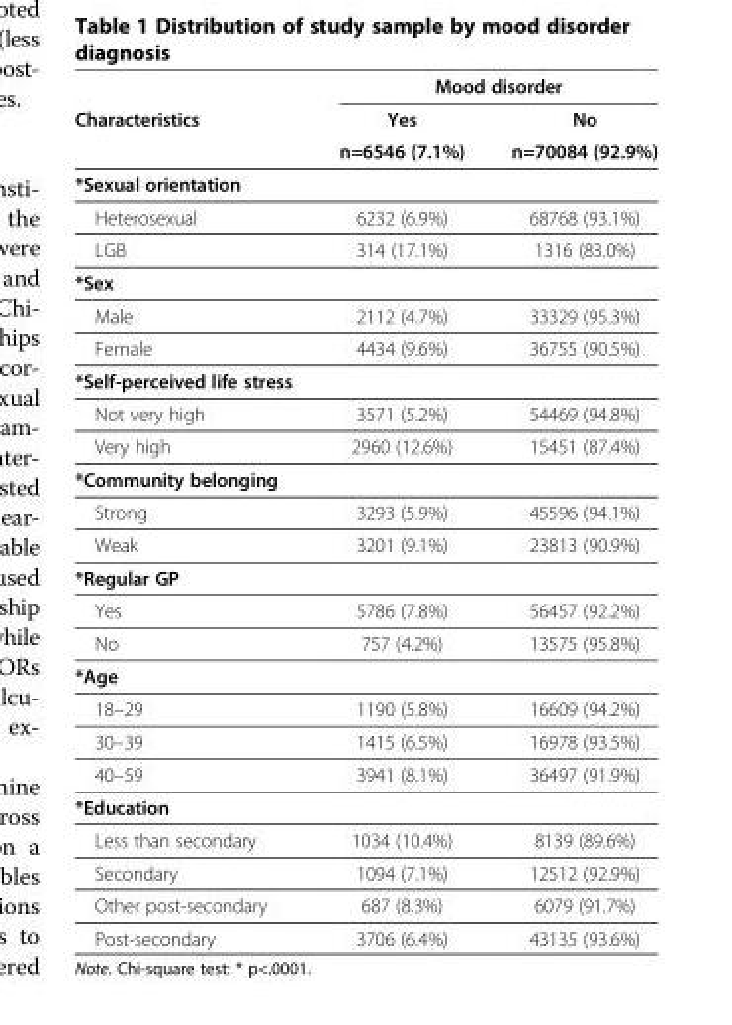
<table><thead><tr><td rowspan="3">Characteristics</td><td colspan="2">Mood disorder</td></tr><tr><td rowspan="2">Yes n=6546 (7.1%)</td><td rowspan="2">No n=70084 (92.9%)</td></tr><tr></tr></thead><tbody><tr><td colspan="3">*Sexual orientation</td></tr><tr><td>Heterosexual</td><td>6232 (6.9%)</td><td>68768 (93.1%)</td></tr><tr><td>LGB</td><td>314 (17.1%)</td><td>1316 (83.0%)</td></tr><tr><td colspan="3">*Sex</td></tr><tr><td>Male</td><td>2112 (4.7%)</td><td>33329 (95.3%)</td></tr><tr><td>Female</td><td>4434 (9.6%)</td><td>36755 (90.5%)</td></tr><tr><td colspan="3">*Self-perceived life stress</td></tr><tr><td>Not very high</td><td>3571 (5.2%)</td><td>54469 (94.8%)</td></tr><tr><td>Very high</td><td>2960 (12.6%)</td><td>15451 (87.4%)</td></tr><tr><td colspan="3">*Community belonging</td></tr><tr><td>Strong</td><td>3293 (5.9%)</td><td>45596 (94.1%)</td></tr><tr><td>Weak</td><td>3201 (9.1%)</td><td>23813 (90.9%)</td></tr><tr><td colspan="3">*Regular GP</td></tr><tr><td>Yes</td><td>5786 (7.8%)</td><td>56457 (92.2%)</td></tr><tr><td>No</td><td>757 (4.2%)</td><td>13575 (95.8%)</td></tr><tr><td colspan="3">*Age</td></tr><tr><td>18–29</td><td>1190 (5.8%)</td><td>16609 (94.2%)</td></tr><tr><td>30–39</td><td>1415 (6.5%)</td><td>16978 (93.5%)</td></tr><tr><td>40–59</td><td>3941 (8.1%)</td><td>36497 (91.9%)</td></tr><tr><td colspan="3">*Education</td></tr><tr><td>Less than secondary</td><td>1034 (10.4%)</td><td>8139 (89.6%)</td></tr><tr><td>Secondary</td><td>1094 (7.1%)</td><td>12512 (92.9%)</td></tr><tr><td>Other post-secondary</td><td>687 (8.3%)</td><td>6079 (91.7%)</td></tr><tr><td>Post-secondary</td><td>3706 (6.4%)</td><td>43135 (93.6%)</td></tr></tbody></table>